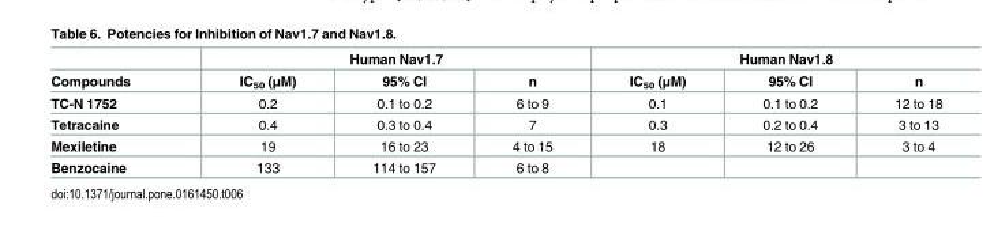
<table><thead><tr><td rowspan="2">Compounds</td><td colspan="3">Human Nav1.7</td><td colspan="3">Human Nav1.8</td></tr><tr><td>IC<sub>50</sub> (μM)</td><td>95% CI</td><td>n</td><td>IC<sub>50</sub> (μM)</td><td>95% CI</td><td>n</td></tr></thead><tbody><tr><td>TC-N 1752</td><td>0.2</td><td>0.1 to 0.2</td><td>6 to 9</td><td>0.1</td><td>0.1 to 0.2</td><td>12 to 18</td></tr><tr><td>Tetracaine</td><td>0.4</td><td>0.3 to 0.4</td><td>7</td><td>0.3</td><td>0.2 to 0.4</td><td>3 to 13</td></tr><tr><td>Mexiletine</td><td>19</td><td>16 to 23</td><td>4 to 15</td><td>18</td><td>12 to 26</td><td>3 to 4</td></tr><tr><td>Benzocaine</td><td>133</td><td>114 to 157</td><td>6 to 8</td><td></td><td></td><td></td></tr></tbody></table>